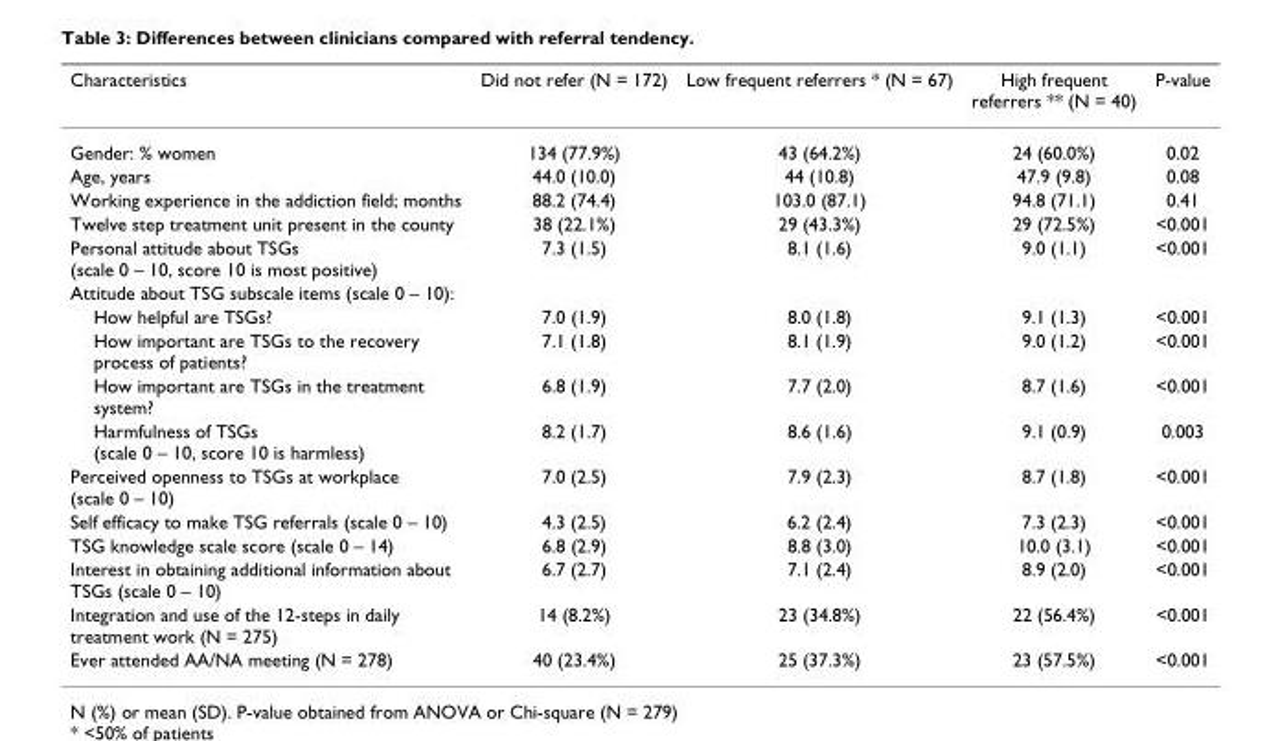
<table><thead><tr><td>Characteristics</td><td>Did not refer (N = 172)</td><td>Low frequent referrers * (N = 67)</td><td>High frequent referrers ** (N = 40)</td><td>P-value</td></tr></thead><tbody><tr><td>Gender: % women</td><td>134 (77.9%)</td><td>43 (64.2%)</td><td>24 (60.0%)</td><td>0.02</td></tr><tr><td>Age, years</td><td>44.0 (10.0)</td><td>44 (10.8)</td><td>47.9 (9.8)</td><td>0.08</td></tr><tr><td>Working experience in the addiction field; months</td><td>88.2 (74.4)</td><td>103.0 (87.1)</td><td>94.8 (71.1)</td><td>0.41</td></tr><tr><td>Twelve step treatment unit present in the county</td><td>38 (22.1%)</td><td>29 (43.3%)</td><td>29 (72.5%)</td><td>&lt;0.001</td></tr><tr><td>Personal attitude about TSGs (scale 0 – 10, score 10 is most positive)</td><td>7.3 (1.5)</td><td>8.1 (1.6)</td><td>9.0 (1.1)</td><td>&lt;0.001</td></tr><tr><td colspan="5">Attitude about TSG subscale items (scale 0 – 10):</td></tr><tr><td>How helpful are TSGs?</td><td>7.0 (1.9)</td><td>8.0 (1.8)</td><td>9.1 (1.3)</td><td>&lt;0.001</td></tr><tr><td>How important are TSGs to the recovery process of patients?</td><td>7.1 (1.8)</td><td>8.1 (1.9)</td><td>9.0 (1.2)</td><td>&lt;0.001</td></tr><tr><td>How important are TSGs in the treatment system?</td><td>6.8 (1.9)</td><td>7.7 (2.0)</td><td>8.7 (1.6)</td><td>&lt;0.001</td></tr><tr><td>Harmfulness of TSGs (scale 0 – 10, score 10 is harmless)</td><td>8.2 (1.7)</td><td>8.6 (1.6)</td><td>9.1 (0.9)</td><td>0.003</td></tr><tr><td>Perceived openness to TSGs at workplace (scale 0 – 10)</td><td>7.0 (2.5)</td><td>7.9 (2.3)</td><td>8.7 (1.8)</td><td>&lt;0.001</td></tr><tr><td>Self efficacy to make TSG referrals (scale 0 – 10)</td><td>4.3 (2.5)</td><td>6.2 (2.4)</td><td>7.3 (2.3)</td><td>&lt;0.001</td></tr><tr><td>TSG knowledge scale score (scale 0 – 14)</td><td>6.8 (2.9)</td><td>8.8 (3.0)</td><td>10.0 (3.1)</td><td>&lt;0.001</td></tr><tr><td>Interest in obtaining additional information about TSGs (scale 0 – 10)</td><td>6.7 (2.7)</td><td>7.1 (2.4)</td><td>8.9 (2.0)</td><td>&lt;0.001</td></tr><tr><td>Integration and use of the 12-steps in daily treatment work (N = 275)</td><td>14 (8.2%)</td><td>23 (34.8%)</td><td>22 (56.4%)</td><td>&lt;0.001</td></tr><tr><td>Ever attended AA/NA meeting (N = 278)</td><td>40 (23.4%)</td><td>25 (37.3%)</td><td>23 (57.5%)</td><td>&lt;0.001</td></tr></tbody></table>